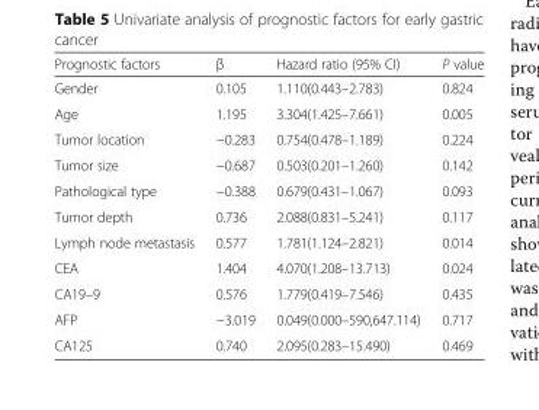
<table><thead><tr><td>Prognostic factors</td><td>β</td><td>Hazard ratio (95% CI)</td><td>P value</td></tr></thead><tbody><tr><td>Gender</td><td>0.105</td><td>1.110(0.443–2.783)</td><td>0.824</td></tr><tr><td>Age</td><td>1.195</td><td>3.304(1.425–7.661)</td><td>0.005</td></tr><tr><td>Tumor location</td><td>−0.283</td><td>0.754(0.478–1.189)</td><td>0.224</td></tr><tr><td>Tumor size</td><td>−0.687</td><td>0.503(0.201–1.260)</td><td>0.142</td></tr><tr><td>Pathological type</td><td>−0.388</td><td>0.679(0.431–1.067)</td><td>0.093</td></tr><tr><td>Tumor depth</td><td>0.736</td><td>2.088(0.831–5.241)</td><td>0.117</td></tr><tr><td>Lymph node metastasis</td><td>0.577</td><td>1.781(1.124–2.821)</td><td>0.014</td></tr><tr><td>CEA</td><td>1.404</td><td>4.070(1.208–13.713)</td><td>0.024</td></tr><tr><td>CA19–9</td><td>0.576</td><td>1.779(0.419–7.546)</td><td>0.435</td></tr><tr><td>AFP</td><td>−3.019</td><td>0.049(0.000–590,647.114)</td><td>0.717</td></tr><tr><td>CA125</td><td>0.740</td><td>2.095(0.283–15.490)</td><td>0.469</td></tr></tbody></table>